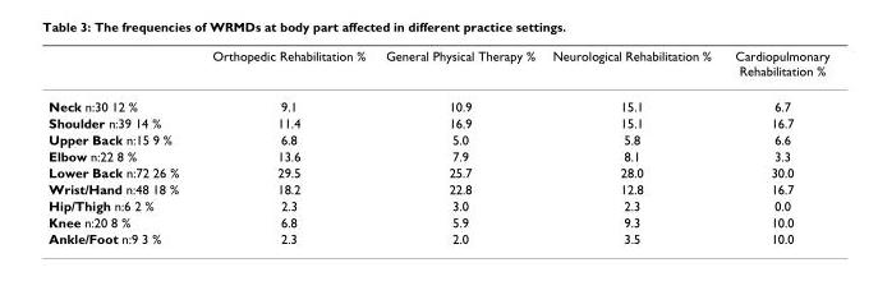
<table><thead><tr><td></td><td>Orthopedic Rehabilitation %</td><td>General Physical Therapy %</td><td>Neurological Rehabilitation %</td><td>Cardiopulmonary Rehabilitation %</td></tr></thead><tbody><tr><td>Neck n:30 12 %</td><td>9.1</td><td>10.9</td><td>15.1</td><td>6.7</td></tr><tr><td>Shoulder n:39 14 %</td><td>11.4</td><td>16.9</td><td>15.1</td><td>16.7</td></tr><tr><td>Upper Back n:15 9 %</td><td>6.8</td><td>5.0</td><td>5.8</td><td>6.6</td></tr><tr><td>Elbow n:22 8 %</td><td>13.6</td><td>7.9</td><td>8.1</td><td>3.3</td></tr><tr><td>Lower Back n:72 26 %</td><td>29.5</td><td>25.7</td><td>28.0</td><td>30.0</td></tr><tr><td>Wrist/Hand n:48 18 %</td><td>18.2</td><td>22.8</td><td>12.8</td><td>16.7</td></tr><tr><td>Hip/Thigh n:6 2 %</td><td>2.3</td><td>3.0</td><td>2.3</td><td>0.0</td></tr><tr><td>Knee n:20 8 %</td><td>6.8</td><td>5.9</td><td>9.3</td><td>10.0</td></tr><tr><td>Ankle/Foot n:9 3 %</td><td>2.3</td><td>2.0</td><td>3.5</td><td>10.0</td></tr></tbody></table>